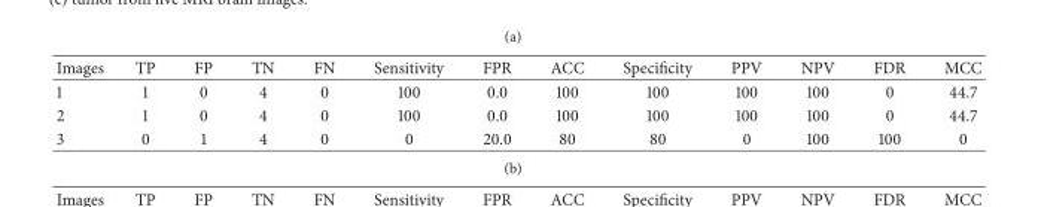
<table><thead><tr><td>Images</td><td>TP</td><td>FP</td><td>TN</td><td>FN</td><td>Sensitivity</td><td>FPR</td><td>ACC</td><td>Specificity</td><td>PPV</td><td>NPV</td><td>FDR</td><td>MCC</td></tr></thead><tbody><tr><td>1</td><td>1</td><td>0</td><td>4</td><td>0</td><td>100</td><td>0.0</td><td>100</td><td>100</td><td>100</td><td>100</td><td>0</td><td>44.7</td></tr><tr><td>2</td><td>1</td><td>0</td><td>4</td><td>0</td><td>100</td><td>0.0</td><td>100</td><td>100</td><td>100</td><td>100</td><td>0</td><td>44.7</td></tr><tr><td>3</td><td>0</td><td>1</td><td>4</td><td>0</td><td>0</td><td>20.0</td><td>80</td><td>80</td><td>0</td><td>100</td><td>100</td><td>0</td></tr></tbody></table>